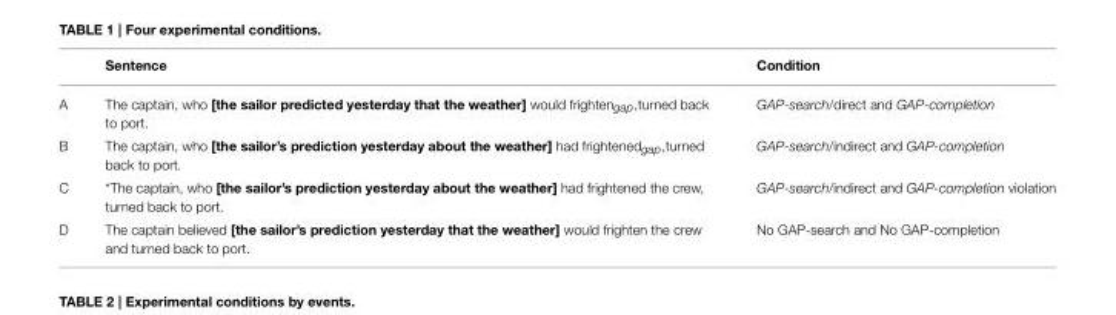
<table><thead><tr><td></td><td>Sentence</td><td>Condition</td></tr></thead><tbody><tr><td>A</td><td>The captain, who [the sailor predicted yesterday that the weather] would frighten<sub>gap</sub>,turned back to port.</td><td>GAP-search/direct and GAP-completion</td></tr><tr><td>B</td><td>The captain, who [the sailor’s prediction yesterday about the weather] had frightened<sub>gap</sub>,turned back to port.</td><td>GAP-search/indirect and GAP-completion</td></tr><tr><td>C</td><td>*The captain, who [the sailor’s prediction yesterday about the weather] had frightened the crew, turned back to port.</td><td>GAP-search/indirect and GAP-completion violation</td></tr><tr><td>D</td><td>The captain believed [the sailor’s prediction yesterday that the weather] would frighten the crew and turned back to port.</td><td>No GAP-search and No GAP-completion</td></tr></tbody></table>